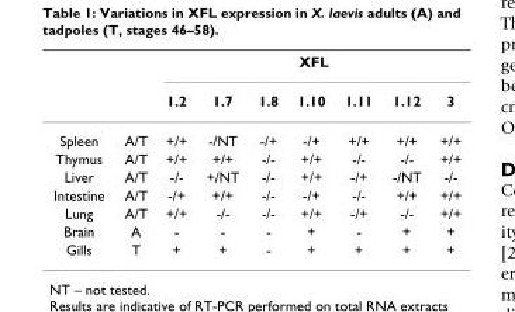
<table><thead><tr><td rowspan="2"></td><td rowspan="2"></td><td colspan="7">XFL</td></tr><tr><td>1.2</td><td>1.7</td><td>1.8</td><td>1.10</td><td>1.11</td><td>1.12</td><td>3</td></tr></thead><tbody><tr><td>Spleen</td><td>A/T</td><td>+/+</td><td>-/NT</td><td>-/+</td><td>-/+</td><td>+/+</td><td>+/+</td><td>+/+</td></tr><tr><td>Thymus</td><td>A/T</td><td>+/+</td><td>+/+</td><td>-/-</td><td>+/+</td><td>-/-</td><td>-/-</td><td>+/+</td></tr><tr><td>Liver</td><td>A/T</td><td>-/-</td><td>+/NT</td><td>-/-</td><td>+/+</td><td>-/+</td><td>-/NT</td><td>-/-</td></tr><tr><td>Intestine</td><td>A/T</td><td>-/+</td><td>+/+</td><td>-/-</td><td>-/+</td><td>-/-</td><td>+/+</td><td>+/+</td></tr><tr><td>Lung</td><td>A/T</td><td>+/+</td><td>-/-</td><td>-/-</td><td>+/+</td><td>-/+</td><td>-/-</td><td>+/+</td></tr><tr><td>Brain</td><td>A</td><td>-</td><td>-</td><td>-</td><td>+</td><td>-</td><td>+</td><td>+</td></tr><tr><td>Gills</td><td>T</td><td>+</td><td>+</td><td>-</td><td>+</td><td>+</td><td>+</td><td>+</td></tr></tbody></table>